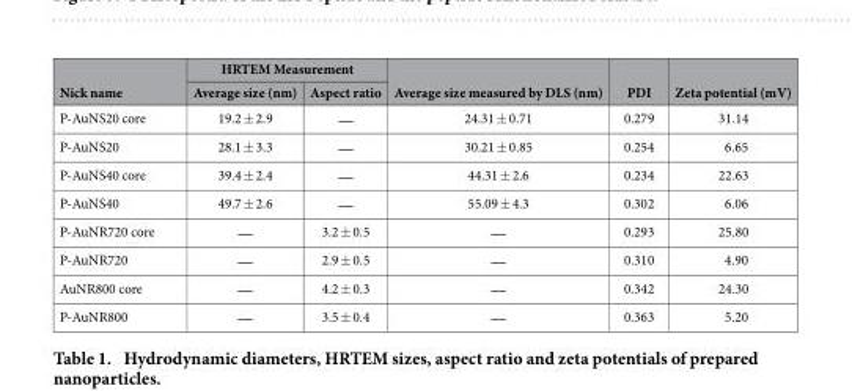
<table><thead><tr><td rowspan="2">Nick name</td><td colspan="2">HRTEM Measurement</td><td rowspan="2">Average size measured by DLS (nm)</td><td rowspan="2">PDI</td><td rowspan="2">Zeta potential (mV)</td></tr><tr><td>Average size (nm)</td><td>Aspect ratio</td></tr></thead><tbody><tr><td>P-AuNS20 core</td><td>19.2 ± 2.9</td><td>—</td><td>24.31 ± 0.71</td><td>0.279</td><td>31.14</td></tr><tr><td>P-AuNS20</td><td>28.1 ± 3.3</td><td>—</td><td>30.21 ± 0.85</td><td>0.254</td><td>6.65</td></tr><tr><td>P-AuNS40 core</td><td>39.4 ± 2.4</td><td>—</td><td>44.31 ± 2.6</td><td>0.234</td><td>22.63</td></tr><tr><td>P-AuNS40</td><td>49.7 ± 2.6</td><td>—</td><td>55.09 ± 4.3</td><td>0.302</td><td>6.06</td></tr><tr><td>P-AuNR720 core</td><td>—</td><td>3.2 ± 0.5</td><td>—</td><td>0.293</td><td>25.80</td></tr><tr><td>P-AuNR720</td><td>—</td><td>2.9 ± 0.5</td><td>—</td><td>0.310</td><td>4.90</td></tr><tr><td>AuNR800 core</td><td>—</td><td>4.2 ± 0.3</td><td>—</td><td>0.342</td><td>24.30</td></tr><tr><td>P-AuNR800</td><td>—</td><td>3.5 ± 0.4</td><td>—</td><td>0.363</td><td>5.20</td></tr></tbody></table>